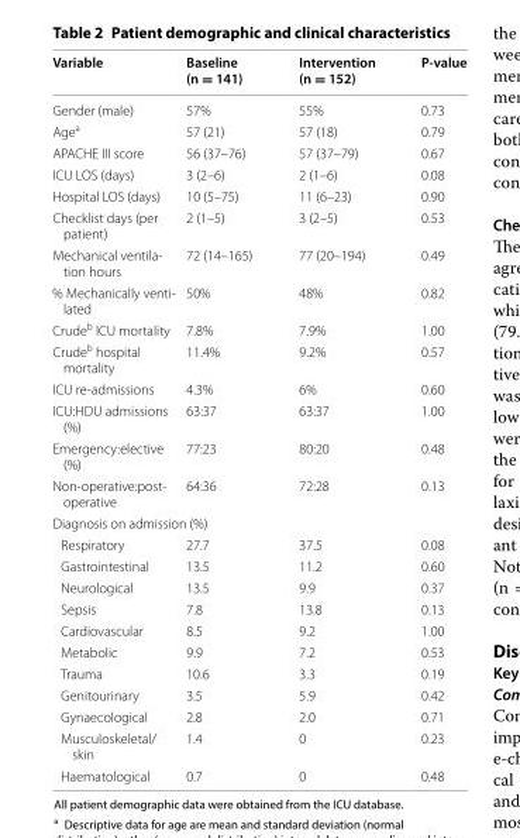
<table><thead><tr><td>Variable</td><td>Baseline (n = 141)</td><td>Intervention (n = 152)</td><td>P-value</td></tr></thead><tbody><tr><td>Gender (male)</td><td>57%</td><td>55%</td><td>0.73</td></tr><tr><td>Age<sup>a</sup></td><td>57 (21)</td><td>57 (18)</td><td>0.79</td></tr><tr><td>APACHE III score</td><td>56 (37–76)</td><td>57 (37–79)</td><td>0.67</td></tr><tr><td>ICU LOS (days)</td><td>3 (2–6)</td><td>2 (1–6)</td><td>0.08</td></tr><tr><td>Hospital LOS (days)</td><td>10 (5–75)</td><td>11 (6–23)</td><td>0.90</td></tr><tr><td>Checklist days (per patient)</td><td>2 (1–5)</td><td>3 (2–5)</td><td>0.53</td></tr><tr><td>Mechanical ventila- tion hours</td><td>72 (14–165)</td><td>77 (20–194)</td><td>0.49</td></tr><tr><td>% Mechanically venti- lated</td><td>50%</td><td>48%</td><td>0.82</td></tr><tr><td>Crude<sup>b</sup> ICU mortality</td><td>7.8%</td><td>7.9%</td><td>1.00</td></tr><tr><td>Crude<sup>b</sup> hospital mortality</td><td>11.4%</td><td>9.2%</td><td>0.57</td></tr><tr><td>ICU re-admissions</td><td>4.3%</td><td>6%</td><td>0.60</td></tr><tr><td>ICU:HDU admissions (%)</td><td>63:37</td><td>63:37</td><td>1.00</td></tr><tr><td>Emergency:elective (%)</td><td>77:23</td><td>80:20</td><td>0.48</td></tr><tr><td>Non-operative:post- operative</td><td>64:36</td><td>72:28</td><td>0.13</td></tr><tr><td colspan="4">Diagnosis on admission (%)</td></tr><tr><td>Respiratory</td><td>27.7</td><td>37.5</td><td>0.08</td></tr><tr><td>Gastrointestinal</td><td>13.5</td><td>11.2</td><td>0.60</td></tr><tr><td>Neurological</td><td>13.5</td><td>9.9</td><td>0.37</td></tr><tr><td>Sepsis</td><td>7.8</td><td>13.8</td><td>0.13</td></tr><tr><td>Cardiovascular</td><td>8.5</td><td>9.2</td><td>1.00</td></tr><tr><td>Metabolic</td><td>9.9</td><td>7.2</td><td>0.53</td></tr><tr><td>Trauma</td><td>10.6</td><td>3.3</td><td>0.19</td></tr><tr><td>Genitourinary</td><td>3.5</td><td>5.9</td><td>0.42</td></tr><tr><td>Gynaecological</td><td>2.8</td><td>2.0</td><td>0.71</td></tr><tr><td>Musculoskeletal/ skin</td><td>1.4</td><td>0</td><td>0.23</td></tr><tr><td>Haematological</td><td>0.7</td><td>0</td><td>0.48</td></tr></tbody></table>